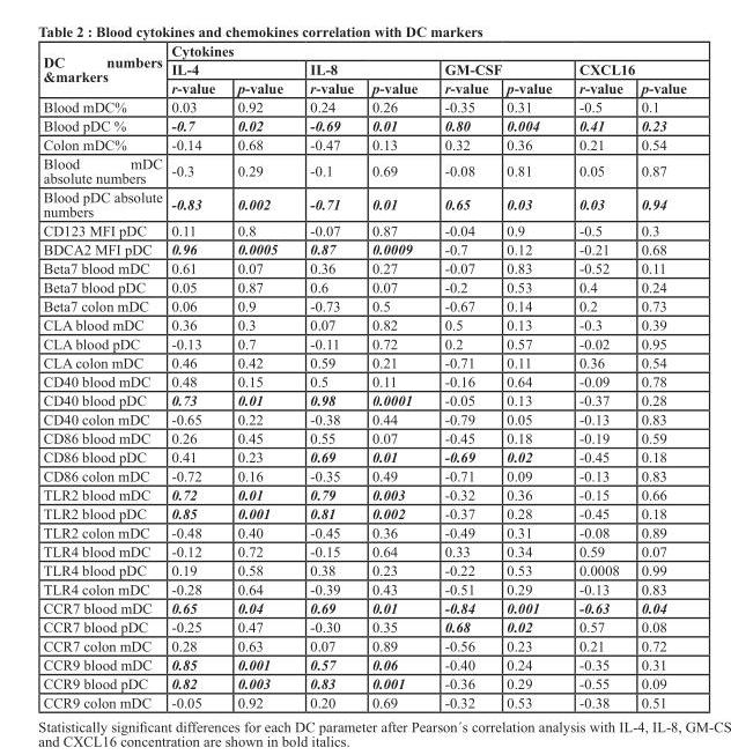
<table><thead><tr><td rowspan="3">DC numbers &amp;markers</td><td colspan="8">Cytokines</td></tr><tr><td colspan="2">IL-4</td><td colspan="2">IL-8</td><td colspan="2">GM-CSF</td><td colspan="2">CXCL16</td></tr><tr><td>r-value</td><td>p-value</td><td>r-value</td><td>p-value</td><td>r-value</td><td>p-value</td><td>r-value</td><td>p-value</td></tr></thead><tbody><tr><td>Blood mDC%</td><td>0.03</td><td>0.92</td><td>0.24</td><td>0.26</td><td>-0.35</td><td>0.31</td><td>-0.5</td><td>0.1</td></tr><tr><td>Blood pDC %</td><td>-0.7</td><td>0.02</td><td>-0.69</td><td>0.01</td><td>0.80</td><td>0.004</td><td>0.41</td><td>0.23</td></tr><tr><td>Colon mDC%</td><td>-0.14</td><td>0.68</td><td>-0.47</td><td>0.13</td><td>0.32</td><td>0.36</td><td>0.21</td><td>0.54</td></tr><tr><td>Blood mDC absolute numbers</td><td>-0.3</td><td>0.29</td><td>-0.1</td><td>0.69</td><td>-0.08</td><td>0.81</td><td>0.05</td><td>0.87</td></tr><tr><td>Blood pDC absolute numbers</td><td>-0.83</td><td>0.002</td><td>-0.71</td><td>0.01</td><td>0.65</td><td>0.03</td><td>0.03</td><td>0.94</td></tr><tr><td>CD123 MFI pDC</td><td>0.11</td><td>0.8</td><td>-0.07</td><td>0.87</td><td>-0.04</td><td>0.9</td><td>-0.5</td><td>0.3</td></tr><tr><td>BDCA2 MFI pDC</td><td>0.96</td><td>0.0005</td><td>0.87</td><td>0.0009</td><td>-0.7</td><td>0.12</td><td>-0.21</td><td>0.68</td></tr><tr><td>Beta7 blood mDC</td><td>0.61</td><td>0.07</td><td>0.36</td><td>0.27</td><td>-0.07</td><td>0.83</td><td>-0.52</td><td>0.11</td></tr><tr><td>Beta7 blood pDC</td><td>0.05</td><td>0.87</td><td>0.6</td><td>0.07</td><td>-0.2</td><td>0.53</td><td>0.4</td><td>0.24</td></tr><tr><td>Beta7 colon mDC</td><td>0.06</td><td>0.9</td><td>-0.73</td><td>0.5</td><td>-0.67</td><td>0.14</td><td>0.2</td><td>0.73</td></tr><tr><td>CLA blood mDC</td><td>0.36</td><td>0.3</td><td>0.07</td><td>0.82</td><td>0.5</td><td>0.13</td><td>-0.3</td><td>0.39</td></tr><tr><td>CLA blood pDC</td><td>-0.13</td><td>0.7</td><td>-0.11</td><td>0.72</td><td>0.2</td><td>0.57</td><td>-0.02</td><td>0.95</td></tr><tr><td>CLA colon mDC</td><td>0.46</td><td>0.42</td><td>0.59</td><td>0.21</td><td>-0.71</td><td>0.11</td><td>0.36</td><td>0.54</td></tr><tr><td>CD40 blood mDC</td><td>0.48</td><td>0.15</td><td>0.5</td><td>0.11</td><td>-0.16</td><td>0.64</td><td>-0.09</td><td>0.78</td></tr><tr><td>CD40 blood pDC</td><td>0.73</td><td>0.01</td><td>0.98</td><td>0.0001</td><td>-0.05</td><td>0.13</td><td>-0.37</td><td>0.28</td></tr><tr><td>CD40 colon mDC</td><td>-0.65</td><td>0.22</td><td>-0.38</td><td>0.44</td><td>-0.79</td><td>0.05</td><td>-0.13</td><td>0.83</td></tr><tr><td>CD86 blood mDC</td><td>0.26</td><td>0.45</td><td>0.55</td><td>0.07</td><td>-0.45</td><td>0.18</td><td>-0.19</td><td>0.59</td></tr><tr><td>CD86 blood pDC</td><td>0.41</td><td>0.23</td><td>0.69</td><td>0.01</td><td>-0.69</td><td>0.02</td><td>-0.45</td><td>0.18</td></tr><tr><td>CD86 colon mDC</td><td>-0.72</td><td>0.16</td><td>-0.35</td><td>0.49</td><td>-0.71</td><td>0.09</td><td>-0.13</td><td>0.83</td></tr><tr><td>TLR2 blood mDC</td><td>0.72</td><td>0.01</td><td>0.79</td><td>0.003</td><td>-0.32</td><td>0.36</td><td>-0.15</td><td>0.66</td></tr><tr><td>TLR2 blood pDC</td><td>0.85</td><td>0.001</td><td>0.81</td><td>0.002</td><td>-0.37</td><td>0.28</td><td>-0.45</td><td>0.18</td></tr><tr><td>TLR2 colon mDC</td><td>-0.48</td><td>0.40</td><td>-0.45</td><td>0.36</td><td>-0.49</td><td>0.31</td><td>-0.08</td><td>0.89</td></tr><tr><td>TLR4 blood mDC</td><td>-0.12</td><td>0.72</td><td>-0.15</td><td>0.64</td><td>0.33</td><td>0.34</td><td>0.59</td><td>0.07</td></tr><tr><td>TLR4 blood pDC</td><td>0.19</td><td>0.58</td><td>0.38</td><td>0.23</td><td>-0.22</td><td>0.53</td><td>0.0008</td><td>0.99</td></tr><tr><td>TLR4 colon mDC</td><td>-0.28</td><td>0.64</td><td>-0.39</td><td>0.43</td><td>-0.51</td><td>0.29</td><td>-0.13</td><td>0.83</td></tr><tr><td>CCR7 blood mDC</td><td>0.65</td><td>0.04</td><td>0.69</td><td>0.01</td><td>-0.84</td><td>0.001</td><td>-0.63</td><td>0.04</td></tr><tr><td>CCR7 blood pDC</td><td>-0.25</td><td>0.47</td><td>-0.30</td><td>0.35</td><td>0.68</td><td>0.02</td><td>0.57</td><td>0.08</td></tr><tr><td>CCR7 colon mDC</td><td>0.28</td><td>0.63</td><td>0.07</td><td>0.89</td><td>-0.56</td><td>0.23</td><td>0.21</td><td>0.72</td></tr><tr><td>CCR9 blood mDC</td><td>0.85</td><td>0.001</td><td>0.57</td><td>0.06</td><td>-0.40</td><td>0.24</td><td>-0.35</td><td>0.31</td></tr><tr><td>CCR9 blood pDC</td><td>0.82</td><td>0.003</td><td>0.83</td><td>0.001</td><td>-0.36</td><td>0.29</td><td>-0.55</td><td>0.09</td></tr><tr><td>CCR9 colon mDC</td><td>-0.05</td><td>0.92</td><td>0.20</td><td>0.69</td><td>-0.32</td><td>0.53</td><td>-0.38</td><td>0.51</td></tr></tbody></table>